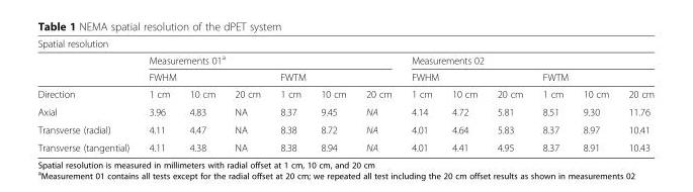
<table><thead><tr><td colspan="13">Spatial resolution</td></tr><tr><td rowspan="3">Direction</td><td colspan="6">Measurements 01<sup>a</sup></td><td colspan="6">Measurements 02</td></tr><tr><td colspan="3">FWHM</td><td colspan="3">FWTM</td><td colspan="3">FWHM</td><td colspan="3">FWTM</td></tr><tr><td>1 cm</td><td>10 cm</td><td>20 cm</td><td>1 cm</td><td>10 cm</td><td>20 cm</td><td>1 cm</td><td>10 cm</td><td>20 cm</td><td>1 cm</td><td>10 cm</td><td>20 cm</td></tr></thead><tbody><tr><td>Axial</td><td>3.96</td><td>4.83</td><td>NA</td><td>8.37</td><td>9.45</td><td>NA</td><td>4.14</td><td>4.72</td><td>5.81</td><td>8.51</td><td>9.30</td><td>11.76</td></tr><tr><td>Transverse (radial)</td><td>4.11</td><td>4.47</td><td>NA</td><td>8.38</td><td>8.72</td><td>NA</td><td>4.01</td><td>4.64</td><td>5.83</td><td>8.37</td><td>8.97</td><td>10.41</td></tr><tr><td>Transverse (tangential)</td><td>4.11</td><td>4.38</td><td>NA</td><td>8.38</td><td>8.94</td><td>NA</td><td>4.01</td><td>4.41</td><td>4.95</td><td>8.37</td><td>8.91</td><td>10.43</td></tr></tbody></table>